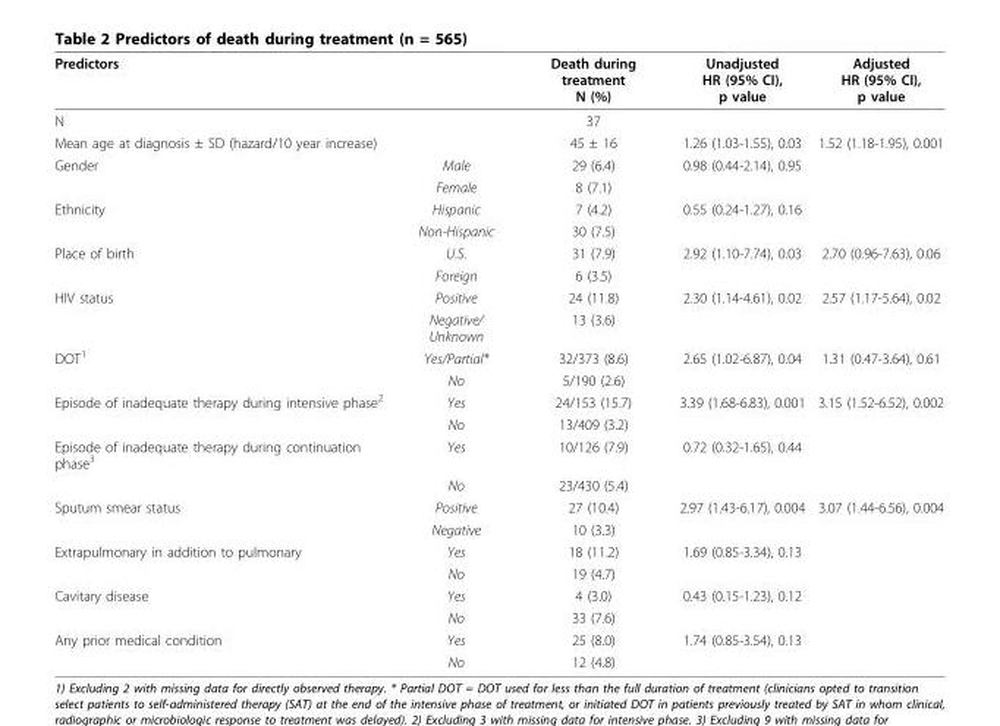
<table><thead><tr><td>Predictors</td><td></td><td>Death during treatment N (%)</td><td>Unadjusted HR (95% CI), p value</td><td>Adjusted HR (95% CI), p value</td></tr></thead><tbody><tr><td>N</td><td></td><td>37</td><td></td><td></td></tr><tr><td>Mean age at diagnosis ± SD (hazard/10 year increase)</td><td></td><td>45 ± 16</td><td>1.26 (1.03-1.55), 0.03</td><td>1.52 (1.18-1.95), 0.001</td></tr><tr><td rowspan="2">Gender</td><td>Male</td><td>29 (6.4)</td><td>0.98 (0.44-2.14), 0.95</td><td></td></tr><tr><td>Female</td><td>8 (7.1)</td><td></td><td></td></tr><tr><td rowspan="2">Ethnicity</td><td>Hispanic</td><td>7 (4.2)</td><td>0.55 (0.24-1.27), 0.16</td><td></td></tr><tr><td>Non-Hispanic</td><td>30 (7.5)</td><td></td><td></td></tr><tr><td rowspan="2">Place of birth</td><td>U.S.</td><td>31 (7.9)</td><td>2.92 (1.10-7.74), 0.03</td><td>2.70 (0.96-7.63), 0.06</td></tr><tr><td>Foreign</td><td>6 (3.5)</td><td></td><td></td></tr><tr><td rowspan="2">HIV status</td><td>Positive</td><td>24 (11.8)</td><td>2.30 (1.14-4.61), 0.02</td><td>2.57 (1.17-5.64), 0.02</td></tr><tr><td>Negative/ Unknown</td><td>13 (3.6)</td><td></td><td></td></tr><tr><td rowspan="2">DOT<sup>1</sup></td><td>Yes/Partial*</td><td>32/373 (8.6)</td><td>2.65 (1.02-6.87), 0.04</td><td>1.31 (0.47-3.64), 0.61</td></tr><tr><td>No</td><td>5/190 (2.6)</td><td></td><td></td></tr><tr><td rowspan="2">Episode of inadequate therapy during intensive phase<sup>2</sup></td><td>Yes</td><td>24/153 (15.7)</td><td>3.39 (1.68-6.83), 0.001</td><td>3.15 (1.52-6.52), 0.002</td></tr><tr><td>No</td><td>13/409 (3.2)</td><td></td><td></td></tr><tr><td rowspan="2">Episode of inadequate therapy during continuation phase<sup>3</sup></td><td>Yes</td><td>10/126 (7.9)</td><td>0.72 (0.32-1.65), 0.44</td><td></td></tr><tr><td>No</td><td>23/430 (5.4)</td><td></td><td></td></tr><tr><td rowspan="2">Sputum smear status</td><td>Positive</td><td>27 (10.4)</td><td>2.97 (1.43-6.17), 0.004</td><td>3.07 (1.44-6.56), 0.004</td></tr><tr><td>Negative</td><td>10 (3.3)</td><td></td><td></td></tr><tr><td rowspan="2">Extrapulmonary in addition to pulmonary</td><td>Yes</td><td>18 (11.2)</td><td>1.69 (0.85-3.34), 0.13</td><td></td></tr><tr><td>No</td><td>19 (4.7)</td><td></td><td></td></tr><tr><td rowspan="2">Cavitary disease</td><td>Yes</td><td>4 (3.0)</td><td>0.43 (0.15-1.23), 0.12</td><td></td></tr><tr><td>No</td><td>33 (7.6)</td><td></td><td></td></tr><tr><td rowspan="2">Any prior medical condition</td><td>Yes</td><td>25 (8.0)</td><td>1.74 (0.85-3.54), 0.13</td><td></td></tr><tr><td>No</td><td>12 (4.8)</td><td></td><td></td></tr></tbody></table>